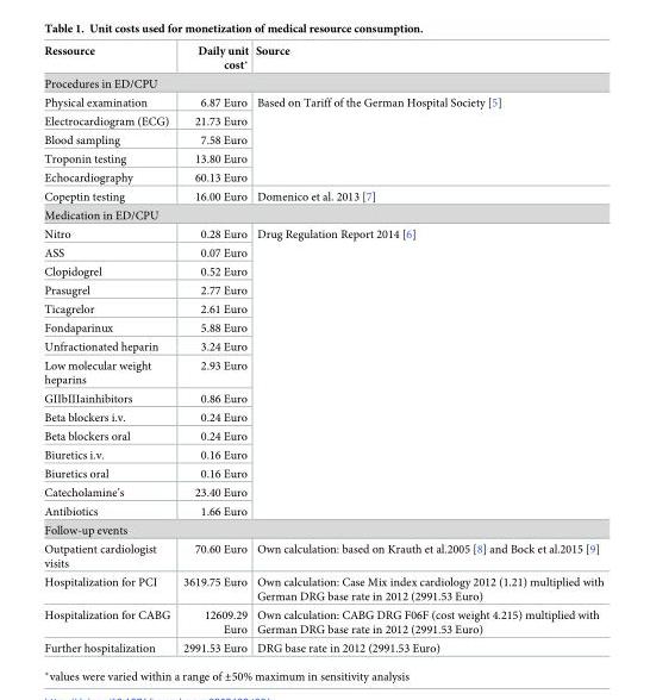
<table><thead><tr><td>Ressource</td><td>Daily unit cost*</td><td>Source</td></tr></thead><tbody><tr><td colspan="3">Procedures in ED/CPU</td></tr><tr><td>Physical examination</td><td>6.87 Euro</td><td rowspan="5">Based on Tariff of the German Hospital Society [5]</td></tr><tr><td>Electrocardiogram (ECG)</td><td>21.73 Euro</td></tr><tr><td>Blood sampling</td><td>7.58 Euro</td></tr><tr><td>Troponin testing</td><td>13.80 Euro</td></tr><tr><td>Echocardiography</td><td>60.13 Euro</td></tr><tr><td>Copeptin testing</td><td>16.00 Euro</td><td>Domenico et al. 2013 [7]</td></tr><tr><td colspan="3">Medication in ED/CPU</td></tr><tr><td>Nitro</td><td>0.28 Euro</td><td rowspan="15">Drug Regulation Report 2014 [6]</td></tr><tr><td>ASS</td><td>0.07 Euro</td></tr><tr><td>Clopidogrel</td><td>0.52 Euro</td></tr><tr><td>Prasugrel</td><td>2.77 Euro</td></tr><tr><td>Ticagrelor</td><td>2.61 Euro</td></tr><tr><td>Fondaparinux</td><td>5.88 Euro</td></tr><tr><td>Unfractionated heparin</td><td>3.24 Euro</td></tr><tr><td>Low molecular weight heparins</td><td>2.93 Euro</td></tr><tr><td>GIIbIIIainhibitors</td><td>0.86 Euro</td></tr><tr><td>Beta blockers i.v.</td><td>0.24 Euro</td></tr><tr><td>Beta blockers oral</td><td>0.24 Euro</td></tr><tr><td>Biuretics i.v.</td><td>0.16 Euro</td></tr><tr><td>Biuretics oral</td><td>0.16 Euro</td></tr><tr><td>Catecholamine’s</td><td>23.40 Euro</td></tr><tr><td>Antibiotics</td><td>1.66 Euro</td></tr><tr><td colspan="3">Follow-up events</td></tr><tr><td>Outpatient cardiologist visits</td><td>70.60 Euro</td><td>Own calculation: based on Krauth et al.2005 [8] and Bock et al.2015 [9]</td></tr><tr><td>Hospitalization for PCI</td><td>3619.75 Euro</td><td>Own calculation: Case Mix index cardiology 2012 (1.21) multiplied with German DRG base rate in 2012 (2991.53 Euro)</td></tr><tr><td>Hospitalization for CABG</td><td>12609.29 Euro</td><td>Own calculation: CABG DRG F06F (cost weight 4.215) multiplied with German DRG base rate in 2012 (2991.53 Euro)</td></tr><tr><td>Further hospitalization</td><td>2991.53 Euro</td><td>DRG base rate in 2012 (2991.53 Euro)</td></tr></tbody></table>